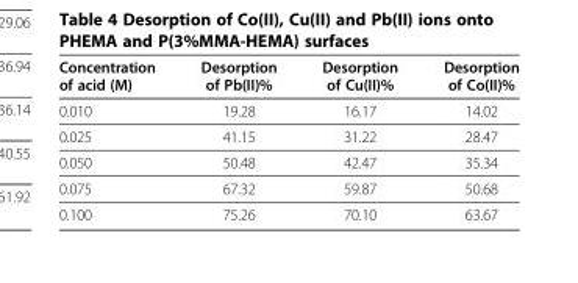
<table><thead><tr><td>Concentration of acid (M)</td><td>Desorption of Pb(ІІ)%</td><td>Desorption of Cu(ΙΙ)%</td><td>Desorption of Co(ΙΙ)%</td></tr></thead><tbody><tr><td>0.010</td><td>19.28</td><td>16.17</td><td>14.02</td></tr><tr><td>0.025</td><td>41.15</td><td>31.22</td><td>28.47</td></tr><tr><td>0.050</td><td>50.48</td><td>42.47</td><td>35.34</td></tr><tr><td>0.075</td><td>67.32</td><td>59.87</td><td>50.68</td></tr><tr><td>0.100</td><td>75.26</td><td>70.10</td><td>63.67</td></tr></tbody></table>